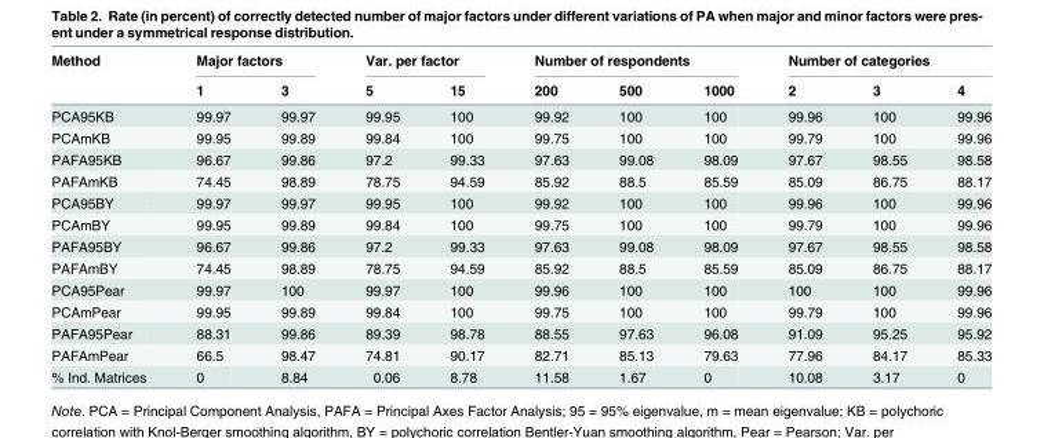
<table><thead><tr><td rowspan="2">Method</td><td colspan="2">Major factors</td><td colspan="2">Var. per factor</td><td colspan="3">Number of respondents</td><td colspan="3">Number of categories</td></tr><tr><td>1</td><td>3</td><td>5</td><td>15</td><td>200</td><td>500</td><td>1000</td><td>2</td><td>3</td><td>4</td></tr></thead><tbody><tr><td>PCA95KB</td><td>99.97</td><td>99.97</td><td>99.95</td><td>100</td><td>99.92</td><td>100</td><td>100</td><td>99.96</td><td>100</td><td>99.96</td></tr><tr><td>PCAmKB</td><td>99.95</td><td>99.89</td><td>99.84</td><td>100</td><td>99.75</td><td>100</td><td>100</td><td>99.79</td><td>100</td><td>99.96</td></tr><tr><td>PAFA95KB</td><td>96.67</td><td>99.86</td><td>97.2</td><td>99.33</td><td>97.63</td><td>99.08</td><td>98.09</td><td>97.67</td><td>98.55</td><td>98.58</td></tr><tr><td>PAFAmKB</td><td>74.45</td><td>98.89</td><td>78.75</td><td>94.59</td><td>85.92</td><td>88.5</td><td>85.59</td><td>85.09</td><td>86.75</td><td>88.17</td></tr><tr><td>PCA95BY</td><td>99.97</td><td>99.97</td><td>99.95</td><td>100</td><td>99.92</td><td>100</td><td>100</td><td>99.96</td><td>100</td><td>99.96</td></tr><tr><td>PCAmBY</td><td>99.95</td><td>99.89</td><td>99.84</td><td>100</td><td>99.75</td><td>100</td><td>100</td><td>99.79</td><td>100</td><td>99.96</td></tr><tr><td>PAFA95BY</td><td>96.67</td><td>99.86</td><td>97.2</td><td>99.33</td><td>97.63</td><td>99.08</td><td>98.09</td><td>97.67</td><td>98.55</td><td>98.58</td></tr><tr><td>PAFAmBY</td><td>74.45</td><td>98.89</td><td>78.75</td><td>94.59</td><td>85.92</td><td>88.5</td><td>85.59</td><td>85.09</td><td>86.75</td><td>88.17</td></tr><tr><td>PCA95Pear</td><td>99.97</td><td>100</td><td>99.97</td><td>100</td><td>99.96</td><td>100</td><td>100</td><td>100</td><td>100</td><td>99.96</td></tr><tr><td>PCAmPear</td><td>99.95</td><td>99.89</td><td>99.84</td><td>100</td><td>99.75</td><td>100</td><td>100</td><td>99.79</td><td>100</td><td>99.96</td></tr><tr><td>PAFA95Pear</td><td>88.31</td><td>99.86</td><td>89.39</td><td>98.78</td><td>88.55</td><td>97.63</td><td>96.08</td><td>91.09</td><td>95.25</td><td>95.92</td></tr><tr><td>PAFAmPear</td><td>66.5</td><td>98.47</td><td>74.81</td><td>90.17</td><td>82.71</td><td>85.13</td><td>79.63</td><td>77.96</td><td>84.17</td><td>85.33</td></tr><tr><td>% Ind. Matrices</td><td>0</td><td>8.84</td><td>0.06</td><td>8.78</td><td>11.58</td><td>1.67</td><td>0</td><td>10.08</td><td>3.17</td><td>0</td></tr></tbody></table>